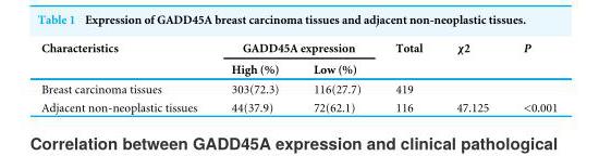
<table><thead><tr><td rowspan="2">Characteristics</td><td colspan="2">GADD45A expression</td><td rowspan="2">Total</td><td rowspan="2">χ2</td><td rowspan="2">P</td></tr><tr><td>High (%)</td><td>Low (%)</td></tr></thead><tbody><tr><td>Breast carcinoma tissues</td><td>303(72.3)</td><td>116(27.7)</td><td>419</td><td></td><td></td></tr><tr><td>Adjacent non-neoplastic tissues</td><td>44(37.9)</td><td>72(62.1)</td><td>116</td><td>47.125</td><td>&lt;0.001</td></tr></tbody></table>